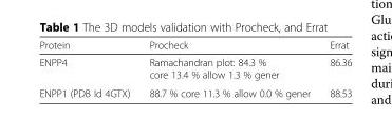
<table><thead><tr><td>Protein</td><td>Procheck</td><td>Errat</td></tr></thead><tbody><tr><td>ENPP4</td><td>Ramachandran plot: 84.3 % core 13.4 % allow 1.3 % gener</td><td>86.36</td></tr><tr><td>ENPP1 (PDB Id 4GTX)</td><td>88.7 % core 11.3 % allow 0.0 % gener</td><td>88.53</td></tr></tbody></table>